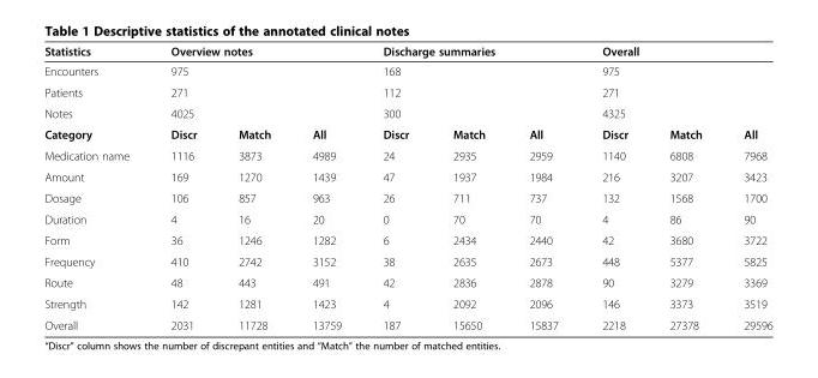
<table><thead><tr><td>Statistics</td><td colspan="3">Overview notes</td><td colspan="3">Discharge summaries</td><td colspan="3">Overall</td></tr></thead><tbody><tr><td>Encounters</td><td colspan="3">975</td><td colspan="3">168</td><td colspan="3">975</td></tr><tr><td>Patients</td><td colspan="3">271</td><td colspan="3">112</td><td colspan="3">271</td></tr><tr><td>Notes</td><td colspan="3">4025</td><td colspan="3">300</td><td colspan="3">4325</td></tr><tr><td>Category</td><td>Discr</td><td>Match</td><td>All</td><td>Discr</td><td>Match</td><td>All</td><td>Discr</td><td>Match</td><td>All</td></tr><tr><td>Medication name</td><td>1116</td><td>3873</td><td>4989</td><td>24</td><td>2935</td><td>2959</td><td>1140</td><td>6808</td><td>7968</td></tr><tr><td>Amount</td><td>169</td><td>1270</td><td>1439</td><td>47</td><td>1937</td><td>1984</td><td>216</td><td>3207</td><td>3423</td></tr><tr><td>Dosage</td><td>106</td><td>857</td><td>963</td><td>26</td><td>711</td><td>737</td><td>132</td><td>1568</td><td>1700</td></tr><tr><td>Duration</td><td>4</td><td>16</td><td>20</td><td>0</td><td>70</td><td>70</td><td>4</td><td>86</td><td>90</td></tr><tr><td>Form</td><td>36</td><td>1246</td><td>1282</td><td>6</td><td>2434</td><td>2440</td><td>42</td><td>3680</td><td>3722</td></tr><tr><td>Frequency</td><td>410</td><td>2742</td><td>3152</td><td>38</td><td>2635</td><td>2673</td><td>448</td><td>5377</td><td>5825</td></tr><tr><td>Route</td><td>48</td><td>443</td><td>491</td><td>42</td><td>2836</td><td>2878</td><td>90</td><td>3279</td><td>3369</td></tr><tr><td>Strength</td><td>142</td><td>1281</td><td>1423</td><td>4</td><td>2092</td><td>2096</td><td>146</td><td>3373</td><td>3519</td></tr><tr><td>Overall</td><td>2031</td><td>11728</td><td>13759</td><td>187</td><td>15650</td><td>15837</td><td>2218</td><td>27378</td><td>29596</td></tr></tbody></table>